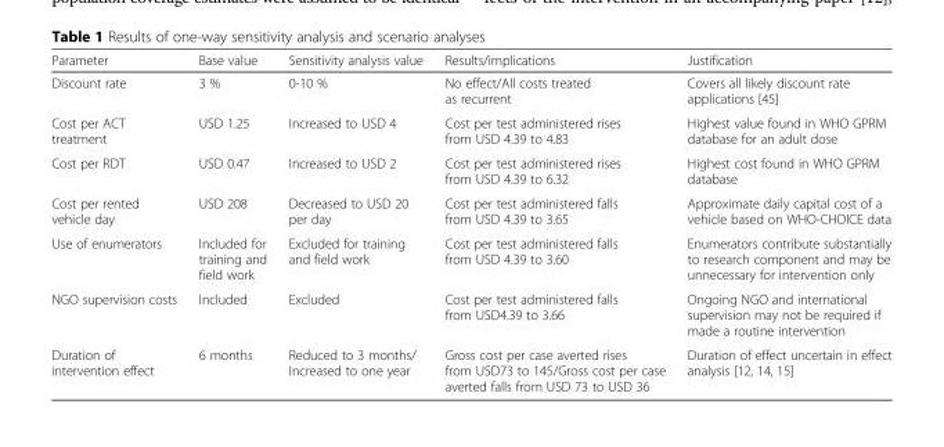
<table><thead><tr><td>Parameter</td><td>Base value</td><td>Sensitivity analysis value</td><td>Results/implications</td><td>Justification</td></tr></thead><tbody><tr><td>Discount rate</td><td>3 %</td><td>0-10 %</td><td>No effect/All costs treated as recurrent</td><td>Covers all likely discount rate applications [45]</td></tr><tr><td>Cost per ACT treatment</td><td>USD 1.25</td><td>Increased to USD 4</td><td>Cost per test administered rises from USD 4.39 to 4.83</td><td>Highest value found in WHO GPRM database for an adult dose</td></tr><tr><td>Cost per RDT</td><td>USD 0.47</td><td>Increased to USD 2</td><td>Cost per test administered rises from USD 4.39 to 6.32</td><td>Highest cost found in WHO GPRM database</td></tr><tr><td>Cost per rented vehicle day</td><td>USD 208</td><td>Decreased to USD 20 per day</td><td>Cost per test administered falls from USD 4.39 to 3.65</td><td>Approximate daily capital cost of a vehicle based on WHO-CHOICE data</td></tr><tr><td>Use of enumerators</td><td>Included for training and field work</td><td>Excluded for training and field work</td><td>Cost per test administered falls from USD 4.39 to 3.60</td><td>Enumerators contribute substantially to research component and may be unnecessary for intervention only</td></tr><tr><td>NGO supervision costs</td><td>Included</td><td>Excluded</td><td>Cost per test administered falls from USD4.39 to 3.66</td><td>Ongoing NGO and international supervision may not be required if made a routine intervention</td></tr><tr><td>Duration of intervention effect</td><td>6 months</td><td>Reduced to 3 months/ Increased to one year</td><td>Gross cost per case averted rises from USD73 to 145/Gross cost per case averted falls from USD 73 to USD 36</td><td>Duration of effect uncertain in effect analysis [12, 14, 15]</td></tr></tbody></table>